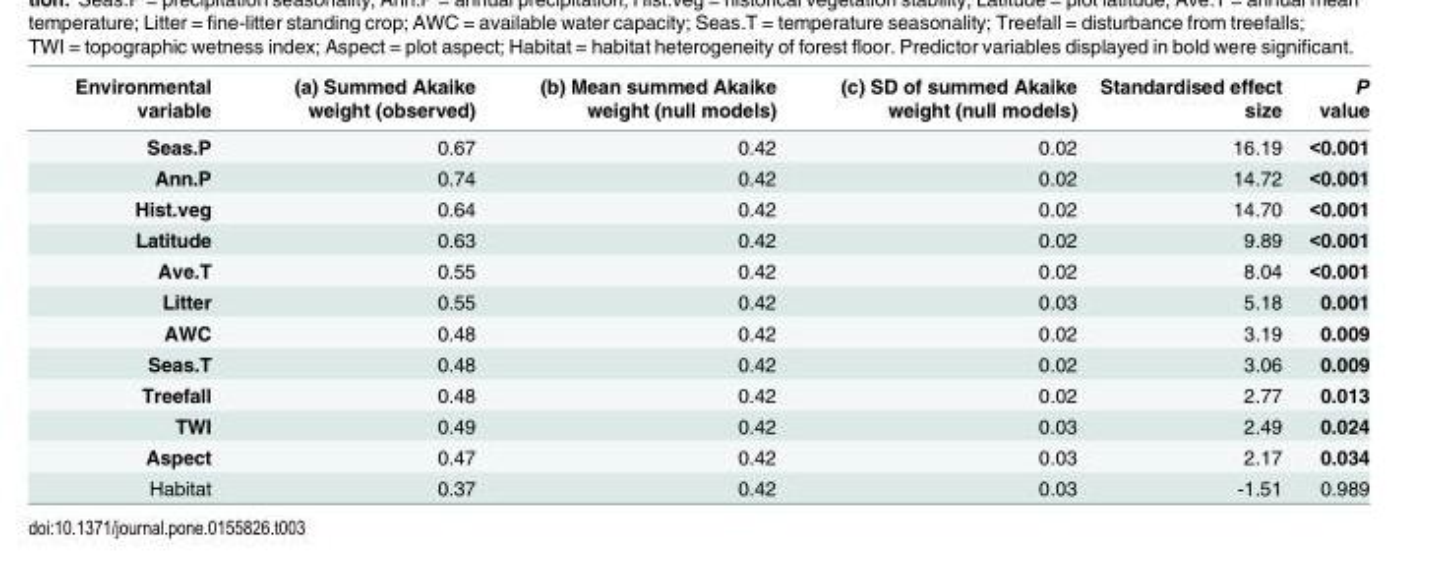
<table><thead><tr><td>Environmental variable</td><td>(a) Summed Akaike weight (observed)</td><td>(b) Mean summed Akaike weight (null models)</td><td>(c) SD of summed Akaike weight (null models)</td><td>Standardised effect size</td><td>P value</td></tr></thead><tbody><tr><td>Seas.P</td><td>0.67</td><td>0.42</td><td>0.02</td><td>16.19</td><td>&lt;0.001</td></tr><tr><td>Ann.P</td><td>0.74</td><td>0.42</td><td>0.02</td><td>14.72</td><td>&lt;0.001</td></tr><tr><td>Hist.veg</td><td>0.64</td><td>0.42</td><td>0.02</td><td>14.70</td><td>&lt;0.001</td></tr><tr><td>Latitude</td><td>0.63</td><td>0.42</td><td>0.02</td><td>9.89</td><td>&lt;0.001</td></tr><tr><td>Ave.T</td><td>0.55</td><td>0.42</td><td>0.02</td><td>8.04</td><td>&lt;0.001</td></tr><tr><td>Litter</td><td>0.55</td><td>0.42</td><td>0.03</td><td>5.18</td><td>0.001</td></tr><tr><td>AWC</td><td>0.48</td><td>0.42</td><td>0.02</td><td>3.19</td><td>0.009</td></tr><tr><td>Seas.T</td><td>0.48</td><td>0.42</td><td>0.02</td><td>3.06</td><td>0.009</td></tr><tr><td>Treefall</td><td>0.48</td><td>0.42</td><td>0.02</td><td>2.77</td><td>0.013</td></tr><tr><td>TWI</td><td>0.49</td><td>0.42</td><td>0.03</td><td>2.49</td><td>0.024</td></tr><tr><td>Aspect</td><td>0.47</td><td>0.42</td><td>0.03</td><td>2.17</td><td>0.034</td></tr><tr><td>Habitat</td><td>0.37</td><td>0.42</td><td>0.03</td><td>-1.51</td><td>0.989</td></tr></tbody></table>